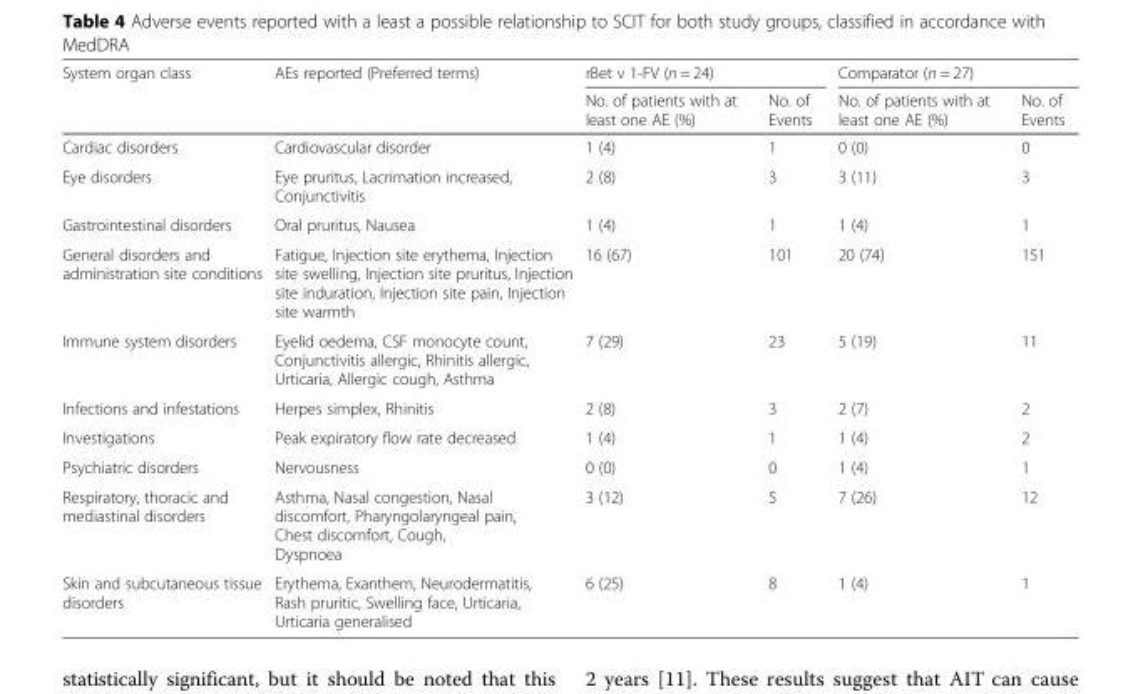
<table><thead><tr><td rowspan="2">System organ class</td><td rowspan="2">AEs reported (Preferred terms)</td><td colspan="2">rBet v 1-FV (n = 24)</td><td colspan="2">Comparator (n = 27)</td></tr><tr><td>No. of patients with at least one AE (%)</td><td>No. of Events</td><td>No. of patients with at least one AE (%)</td><td>No. of Events</td></tr></thead><tbody><tr><td>Cardiac disorders</td><td>Cardiovascular disorder</td><td>1 (4)</td><td>1</td><td>0 (0)</td><td>0</td></tr><tr><td>Eye disorders</td><td>Eye pruritus, Lacrimation increased, Conjunctivitis</td><td>2 (8)</td><td>3</td><td>3 (11)</td><td>3</td></tr><tr><td>Gastrointestinal disorders</td><td>Oral pruritus, Nausea</td><td>1 (4)</td><td>1</td><td>1 (4)</td><td>1</td></tr><tr><td>General disorders and administration site conditions</td><td>Fatigue, Injection site erythema, Injection site swelling, Injection site pruritus, Injection site induration, Injection site pain, Injection site warmth</td><td>16 (67)</td><td>101</td><td>20 (74)</td><td>151</td></tr><tr><td>Immune system disorders</td><td>Eyelid oedema, CSF monocyte count, Conjunctivitis allergic, Rhinitis allergic, Urticaria, Allergic cough, Asthma</td><td>7 (29)</td><td>23</td><td>5 (19)</td><td>11</td></tr><tr><td>Infections and infestations</td><td>Herpes simplex, Rhinitis</td><td>2 (8)</td><td>3</td><td>2 (7)</td><td>2</td></tr><tr><td>Investigations</td><td>Peak expiratory flow rate decreased</td><td>1 (4)</td><td>1</td><td>1 (4)</td><td>2</td></tr><tr><td>Psychiatric disorders</td><td>Nervousness</td><td>0 (0)</td><td>0</td><td>1 (4)</td><td>1</td></tr><tr><td>Respiratory, thoracic and mediastinal disorders</td><td>Asthma, Nasal congestion, Nasal discomfort, Pharyngolaryngeal pain, Chest discomfort, Cough, Dyspnoea</td><td>3 (12)</td><td>5</td><td>7 (26)</td><td>12</td></tr><tr><td>Skin and subcutaneous tissue disorders</td><td>Erythema, Exanthem, Neurodermatitis, Rash pruritic, Swelling face, Urticaria, Urticaria generalised</td><td>6 (25)</td><td>8</td><td>1 (4)</td><td>1</td></tr></tbody></table>